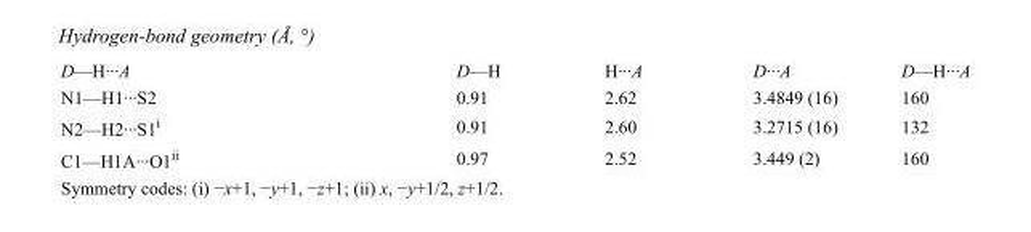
<table><tbody><tr><td>D—H···A</td><td>D—H</td><td>H···A</td><td>D···A</td><td>D—H···A</td></tr><tr><td>N1—H1···S2</td><td>0.91</td><td>2.62</td><td>3.4849 (16)</td><td>160</td></tr><tr><td>N2—H2···S1<sup>i</sup></td><td>0.91</td><td>2.60</td><td>3.2715 (16)</td><td>132</td></tr><tr><td>C1—H1A···O1<sup>ii</sup></td><td>0.97</td><td>2.52</td><td>3.449 (2)</td><td>160</td></tr></tbody></table>